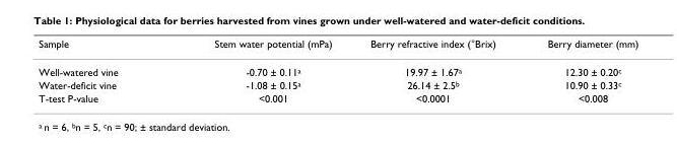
<table><thead><tr><td>Sample</td><td>Stem water potential (mPa)</td><td>Berry refractive index (°Brix)</td><td>Berry diameter (mm)</td></tr></thead><tbody><tr><td>Well-watered vine</td><td>-0.70 ± 0.11<sup>a</sup></td><td>19.97 ± 1.67<sup>a</sup></td><td>12.30 ± 0.20<sup>c</sup></td></tr><tr><td>Water-deficit vine</td><td>-1.08 ± 0.15<sup>a</sup></td><td>26.14 ± 2.5<sup>b</sup></td><td>10.90 ± 0.33<sup>c</sup></td></tr><tr><td>T-test P-value</td><td>&lt;0.001</td><td>&lt;0.0001</td><td>&lt;0.008</td></tr></tbody></table>